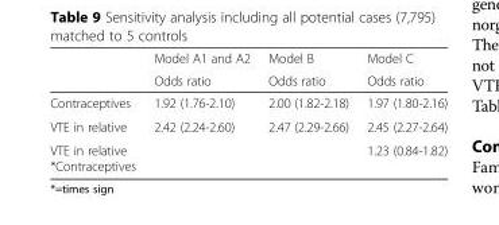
<table><thead><tr><td rowspan="2"></td><td rowspan="2">Model A1 and A2 Odds ratio</td><td rowspan="2">Model B Odds ratio</td><td rowspan="2">Model C Odds ratio</td></tr><tr></tr></thead><tbody><tr><td>Contraceptives</td><td>1.92 (1.76-2.10)</td><td>2.00 (1.82-2.18)</td><td>1.97 (1.80-2.16)</td></tr><tr><td>VTE in relative</td><td>2.42 (2.24-2.60)</td><td>2.47 (2.29-2.66)</td><td>2.45 (2.27-2.64)</td></tr><tr><td>VTE in relative *Contraceptives</td><td></td><td></td><td>1.23 (0.84-1.82)</td></tr></tbody></table>